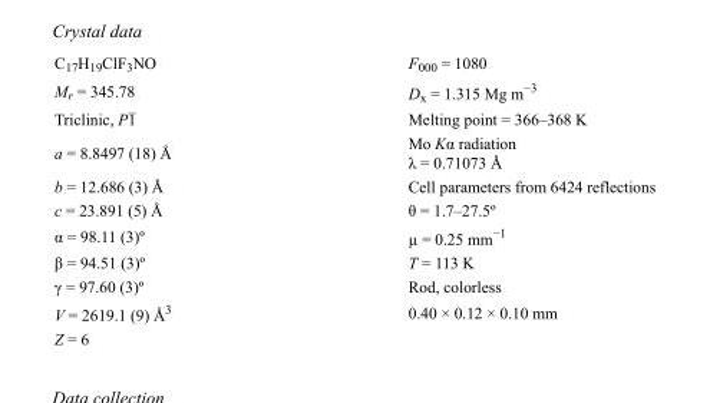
<table><tbody><tr><td>C<sub>17</sub>H<sub>19</sub>ClF<sub>3</sub>NO</td><td>F000 = 1080</td></tr><tr><td>M<sub>r</sub> = 345.78</td><td>D<sub>x</sub> = 1.315 Mg m<sup>−3</sup></td></tr><tr><td>Triclinic, P1</td><td>Melting point = 366–368 K</td></tr><tr><td>a = 8.8497 (18) Å</td><td>Mo Kα radiation λ = 0.71073 Å</td></tr><tr><td>b = 12.686 (3) Å</td><td>Cell parameters from 6424 reflections</td></tr><tr><td>c = 23.891 (5) Å</td><td>θ = 1.7–27.5º</td></tr><tr><td>α = 98.11 (3)º</td><td>µ = 0.25 mm<sup>−1</sup></td></tr><tr><td>β = 94.51 (3)º</td><td>T = 113 K</td></tr><tr><td>γ = 97.60 (3)º</td><td>Rod, colorless</td></tr><tr><td>V = 2619.1 (9) Å<sup>3</sup></td><td>0.40 × 0.12 × 0.10 mm</td></tr><tr><td>Z = 6</td><td></td></tr></tbody></table>